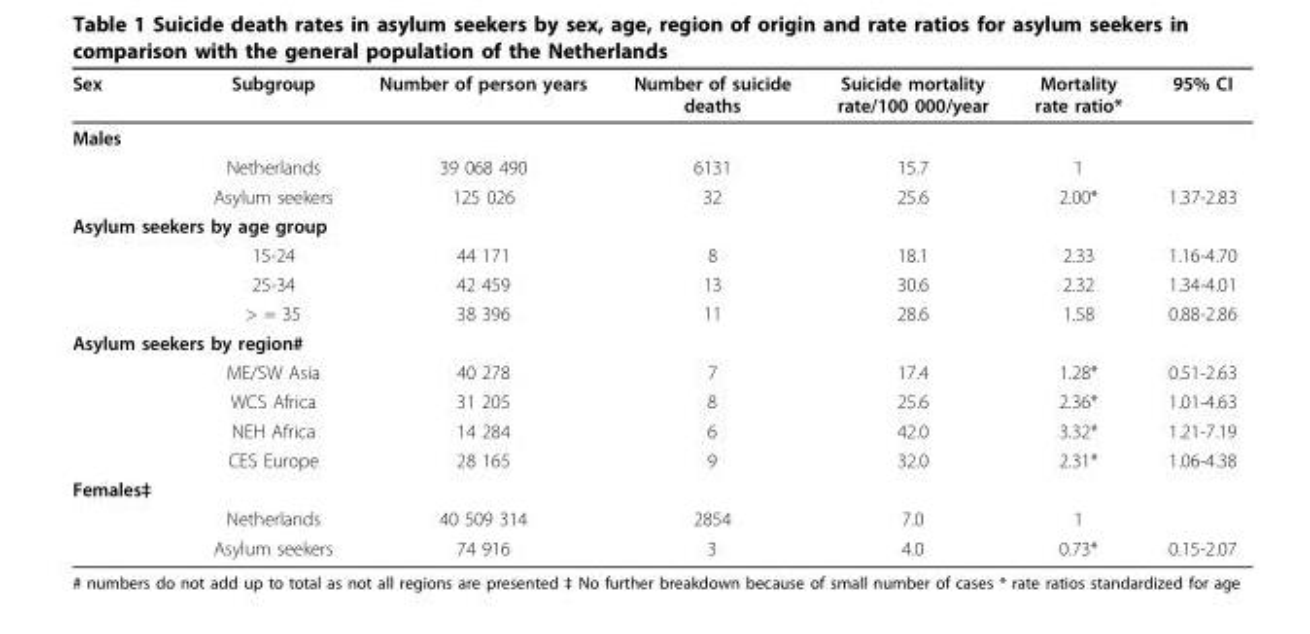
<table><thead><tr><td>Sex</td><td>Subgroup</td><td>Number of person years</td><td>Number of suicide deaths</td><td>Suicide mortality rate/100 000/year</td><td>Mortality rate ratio*</td><td>95% CI</td></tr></thead><tbody><tr><td colspan="7">Males</td></tr><tr><td></td><td>Netherlands</td><td>39 068 490</td><td>6131</td><td>15.7</td><td>1</td><td></td></tr><tr><td></td><td>Asylum seekers</td><td>125 026</td><td>32</td><td>25.6</td><td>2.00*</td><td>1.37-2.83</td></tr><tr><td colspan="7">Asylum seekers by age group</td></tr><tr><td></td><td>15-24</td><td>44 171</td><td>8</td><td>18.1</td><td>2.33</td><td>1.16-4.70</td></tr><tr><td></td><td>25-34</td><td>42 459</td><td>13</td><td>30.6</td><td>2.32</td><td>1.34-4.01</td></tr><tr><td></td><td>&gt; = 35</td><td>38 396</td><td>11</td><td>28.6</td><td>1.58</td><td>0.88-2.86</td></tr><tr><td colspan="7">Asylum seekers by region#</td></tr><tr><td></td><td>ME/SW Asia</td><td>40 278</td><td>7</td><td>17.4</td><td>1.28*</td><td>0.51-2.63</td></tr><tr><td></td><td>WCS Africa</td><td>31 205</td><td>8</td><td>25.6</td><td>2.36*</td><td>1.01-4.63</td></tr><tr><td></td><td>NEH Africa</td><td>14 284</td><td>6</td><td>42.0</td><td>3.32*</td><td>1.21-7.19</td></tr><tr><td></td><td>CES Europe</td><td>28 165</td><td>9</td><td>32.0</td><td>2.31*</td><td>1.06-4.38</td></tr><tr><td colspan="7">Females‡</td></tr><tr><td></td><td>Netherlands</td><td>40 509 314</td><td>2854</td><td>7.0</td><td>1</td><td></td></tr><tr><td></td><td>Asylum seekers</td><td>74 916</td><td>3</td><td>4.0</td><td>0.73*</td><td>0.15-2.07</td></tr></tbody></table>